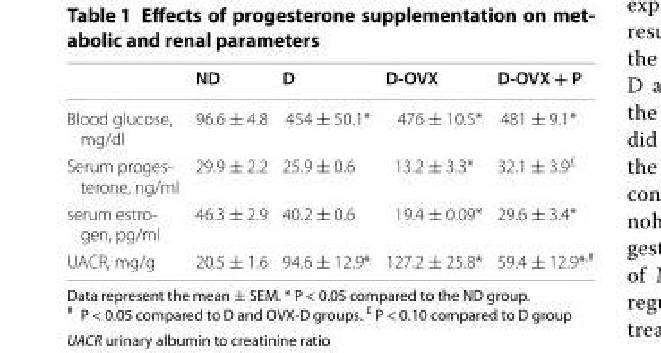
<table><thead><tr><td></td><td>ND</td><td>D</td><td>D‑OVX</td><td>D‑OVX + P</td></tr></thead><tbody><tr><td>Blood glucose, mg/dl</td><td>96.6 ± 4.8</td><td>454 ± 50.1*</td><td>476 ± 10.5*</td><td>481 ± 9.1*</td></tr><tr><td>Serum proges‑ terone, ng/ml</td><td>29.9 ± 2.2</td><td>25.9 ± 0.6</td><td>13.2 ± 3.3*</td><td>32.1 ± 3.9<sup>£</sup></td></tr><tr><td>serum estro‑ gen, pg/ml</td><td>46.3 ± 2.9</td><td>40.2 ± 0.6</td><td>19.4 ± 0.09*</td><td>29.6 ± 3.4*</td></tr><tr><td>UACR, mg/g</td><td>20.5 ± 1.6</td><td>94.6 ± 12.9*</td><td>127.2 ± 25.8*</td><td>59.4 ± 12.9*<sup>,#</sup></td></tr></tbody></table>